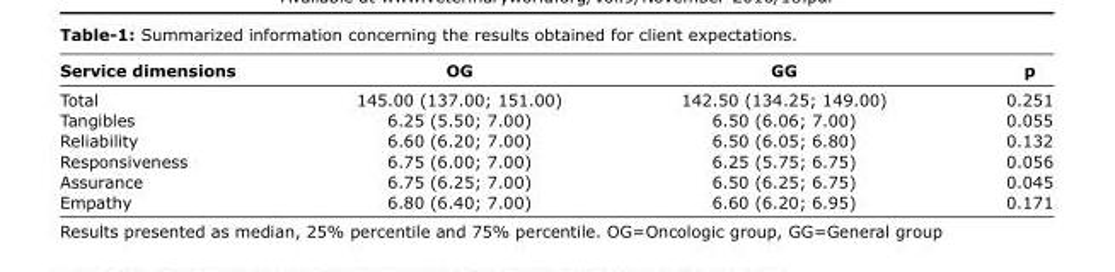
<table><thead><tr><td>Service dimensions</td><td>OG</td><td>GG</td><td>p</td></tr></thead><tbody><tr><td>Total</td><td>145.00 (137.00; 151.00)</td><td>142.50 (134.25; 149.00)</td><td>0.251</td></tr><tr><td>Tangibles</td><td>6.25 (5.50; 7.00)</td><td>6.50 (6.06; 7.00)</td><td>0.055</td></tr><tr><td>Reliability</td><td>6.60 (6.20; 7.00)</td><td>6.50 (6.05; 6.80)</td><td>0.132</td></tr><tr><td>Responsiveness</td><td>6.75 (6.00; 7.00)</td><td>6.25 (5.75; 6.75)</td><td>0.056</td></tr><tr><td>Assurance</td><td>6.75 (6.25; 7.00)</td><td>6.50 (6.25; 6.75)</td><td>0.045</td></tr><tr><td>Empathy</td><td>6.80 (6.40; 7.00)</td><td>6.60 (6.20; 6.95)</td><td>0.171</td></tr></tbody></table>